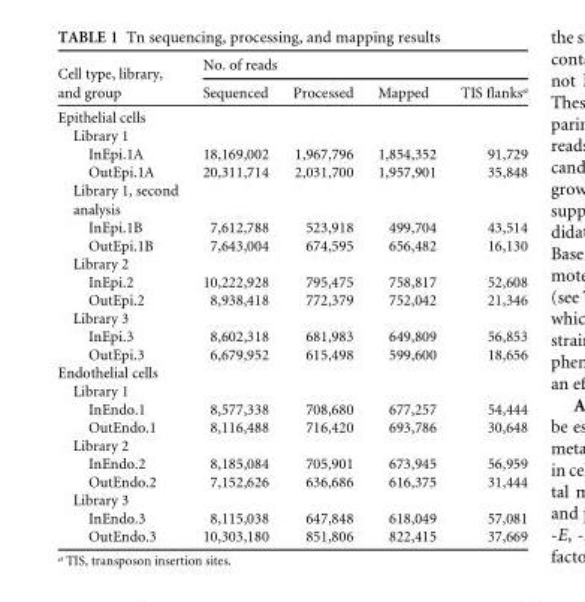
<table><thead><tr><td rowspan="2">Cell type, library, and group</td><td colspan="4">No. of reads</td></tr><tr><td>Sequenced</td><td>Processed</td><td>Mapped</td><td>TIS flanks<sup>a</sup></td></tr></thead><tbody><tr><td colspan="5">Epithelial cells</td></tr><tr><td colspan="5">Library 1</td></tr><tr><td>InEpi.1A</td><td>18,169,002</td><td>1,967,796</td><td>1,854,352</td><td>91,729</td></tr><tr><td>OutEpi.1A</td><td>20,311,714</td><td>2,031,700</td><td>1,957,901</td><td>35,848</td></tr><tr><td colspan="5">Library 1, second analysis</td></tr><tr><td>InEpi.1B</td><td>7,612,788</td><td>523,918</td><td>499,704</td><td>43,514</td></tr><tr><td>OutEpi.1B</td><td>7,643,004</td><td>674,595</td><td>656,482</td><td>16,130</td></tr><tr><td colspan="5">Library 2</td></tr><tr><td>InEpi.2</td><td>10,222,928</td><td>795,475</td><td>758,817</td><td>52,608</td></tr><tr><td>OutEpi.2</td><td>8,938,418</td><td>772,379</td><td>752,042</td><td>21,346</td></tr><tr><td colspan="5">Library 3</td></tr><tr><td>InEpi.3</td><td>8,602,318</td><td>681,983</td><td>649,809</td><td>56,853</td></tr><tr><td>OutEpi.3</td><td>6,679,952</td><td>615,498</td><td>599,600</td><td>18,656</td></tr><tr><td colspan="5">Endothelial cells</td></tr><tr><td colspan="5">Library 1</td></tr><tr><td>InEndo.1</td><td>8,577,338</td><td>708,680</td><td>677,257</td><td>54,444</td></tr><tr><td>OutEndo.1</td><td>8,116,488</td><td>716,420</td><td>693,786</td><td>30,648</td></tr><tr><td colspan="5">Library 2</td></tr><tr><td>InEndo.2</td><td>8,185,084</td><td>705,901</td><td>673,945</td><td>56,959</td></tr><tr><td>OutEndo.2</td><td>7,152,626</td><td>636,686</td><td>616,375</td><td>31,444</td></tr><tr><td colspan="5">Library 3</td></tr><tr><td>InEndo.3</td><td>8,115,038</td><td>647,848</td><td>618,049</td><td>57,081</td></tr><tr><td>OutEndo.3</td><td>10,303,180</td><td>851,806</td><td>822,415</td><td>37,669</td></tr></tbody></table>